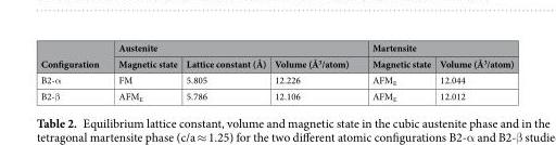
<table><thead><tr><td rowspan="2">Configuration</td><td colspan="3">Austenite</td><td colspan="2">Martensite</td></tr><tr><td>Magnetic state</td><td>Lattice constant (Å)</td><td>Volume (Å<sup>3</sup>/atom)</td><td>Magnetic state</td><td>Volume (Å<sup>3</sup>/atom)</td></tr></thead><tbody><tr><td>B2-α</td><td>FM</td><td>5.805</td><td>12.226</td><td>AFM<sub>E</sub></td><td>12.044</td></tr><tr><td>B2-β</td><td>AFM<sub>E</sub></td><td>5.786</td><td>12.106</td><td>AFM<sub>E</sub></td><td>12.012</td></tr></tbody></table>